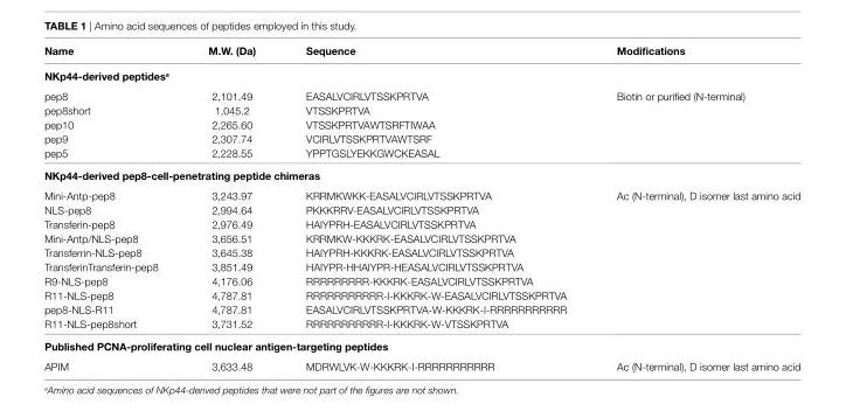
<table><thead><tr><td>name</td><td>M.W. (Da)</td><td>sequence</td><td>Modifications</td></tr></thead><tbody><tr><td colspan="4">nKp44-derived peptides<sup>a</sup></td></tr><tr><td>pep8</td><td>2,101.49</td><td>EASALVCIRLVTSSKPRTVA</td><td rowspan="5">Biotin or purified (N-terminal)</td></tr><tr><td>pep8short</td><td>1,045.2</td><td>VTSSKPRTVA</td></tr><tr><td>pep10</td><td>2,265.60</td><td>VTSSKPRTVAWTSRFTIWAA</td></tr><tr><td>pep9</td><td>2,307.74</td><td>VCIRLVTSSKPRTVAWTSRF</td></tr><tr><td>pep5</td><td>2,228.55</td><td>YPPTGSLYEKKGWCKEASAL</td></tr><tr><td colspan="4">nKp44-derived pep8-cell-penetrating peptide chimeras</td></tr><tr><td>Mini-Antp-pep8</td><td>3,243.97</td><td>KRRMKWKK-EASALVCIRLVTSSKPRTVA</td><td rowspan="10">Ac (N-terminal), D isomer last amino acid</td></tr><tr><td>NLS-pep8</td><td>2,994.64</td><td>PKKKRRV-EASALVCIRLVTSSKPRTVA</td></tr><tr><td>Transferin-pep8</td><td>2,976.49</td><td>HAIYPRH-EASALVCIRLVTSSKPRTVA</td></tr><tr><td>Mini-Antp/NLS-pep8</td><td>3,656.51</td><td>KRRMKW-KKKRK-EASALVCIRLVTSSKPRTVA</td></tr><tr><td>Transferrin-NLS-pep8</td><td>3,645.38</td><td>HAIYPRH-KKKRK-EASALVCIRLVTSSKPRTVA</td></tr><tr><td>TransferinTransferin-pep8</td><td>3,851.49</td><td>HAIYPR-HHAIYPR-HEASALVCIRLVTSSKPRTVA</td></tr><tr><td>R9-NLS-pep8</td><td>4,176.06</td><td>RRRRRRRRR-KKKRK-EASALVCIRLVTSSKPRTVA</td></tr><tr><td>R11-NLS-pep8</td><td>4,787.81</td><td>RRRRRRRRRRR-I-KKKRK-W-EASALVCIRLVTSSKPRTVA</td></tr><tr><td>pep8-NLS-R11</td><td>4,787.81</td><td>EASALVCIRLVTSSKPRTVA-W-KKKRK-I-RRRRRRRRRRR</td></tr><tr><td>R11-NLS-pep8short</td><td>3,731.52</td><td>RRRRRRRRRRR-I-KKKRK-W-VTSSKPRTVA</td></tr><tr><td colspan="4">Published Pcna-proliferating cell nuclear antigen-targeting peptides</td></tr><tr><td>APIM</td><td>3,633.48</td><td>MDRWLVK-W-KKKRK-I-RRRRRRRRRRR</td><td>Ac (N-terminal), D isomer last amino acid</td></tr></tbody></table>